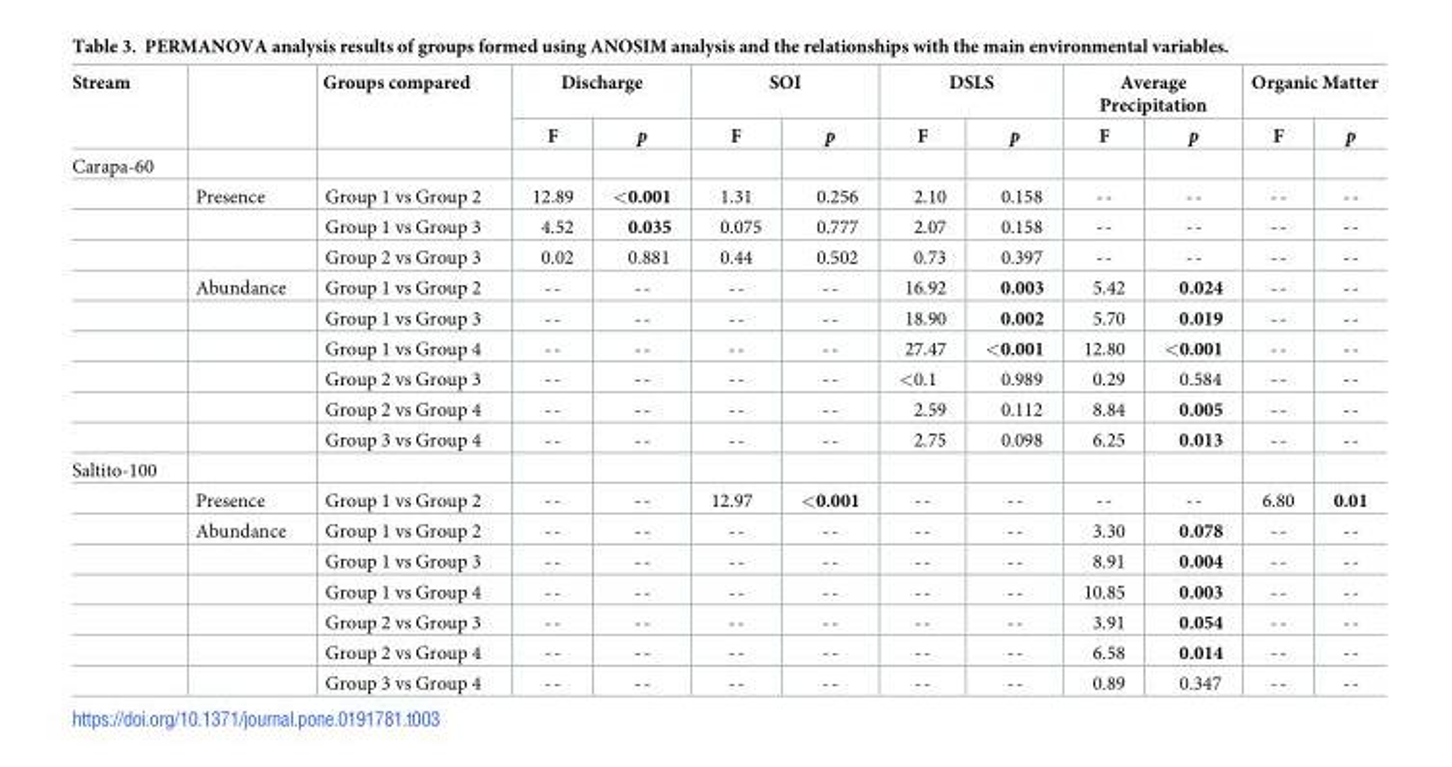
<table><thead><tr><td rowspan="2">Stream</td><td rowspan="2"></td><td rowspan="2">Groups compared</td><td colspan="2">Discharge</td><td colspan="2">SOI</td><td colspan="2">DSLS</td><td colspan="2">Average Precipitation</td><td colspan="2">Organic Matter</td></tr><tr><td>F</td><td>p</td><td>F</td><td>p</td><td>F</td><td>p</td><td>F</td><td>p</td><td>F</td><td>p</td></tr></thead><tbody><tr><td colspan="13">Carapa-60</td></tr><tr><td></td><td>Presence</td><td>Group 1 vs Group 2</td><td>12.89</td><td>&lt;0.001</td><td>1.31</td><td>0.256</td><td>2.10</td><td>0.158</td><td>--</td><td>--</td><td>--</td><td>--</td></tr><tr><td></td><td></td><td>Group 1 vs Group 3</td><td>4.52</td><td>0.035</td><td>0.075</td><td>0.777</td><td>2.07</td><td>0.158</td><td>--</td><td>--</td><td>--</td><td>--</td></tr><tr><td></td><td></td><td>Group 2 vs Group 3</td><td>0.02</td><td>0.881</td><td>0.44</td><td>0.502</td><td>0.73</td><td>0.397</td><td>--</td><td>--</td><td>--</td><td>--</td></tr><tr><td></td><td>Abundance</td><td>Group 1 vs Group 2</td><td>--</td><td>--</td><td>--</td><td>--</td><td>16.92</td><td>0.003</td><td>5.42</td><td>0.024</td><td>--</td><td>--</td></tr><tr><td></td><td></td><td>Group 1 vs Group 3</td><td>--</td><td>--</td><td>--</td><td>--</td><td>18.90</td><td>0.002</td><td>5.70</td><td>0.019</td><td>--</td><td>--</td></tr><tr><td></td><td></td><td>Group 1 vs Group 4</td><td>--</td><td>--</td><td>--</td><td>--</td><td>27.47</td><td>&lt;0.001</td><td>12.80</td><td>&lt;0.001</td><td>--</td><td>--</td></tr><tr><td></td><td></td><td>Group 2 vs Group 3</td><td>--</td><td>--</td><td>--</td><td>--</td><td>&lt;0.1</td><td>0.989</td><td>0.29</td><td>0.584</td><td>--</td><td>--</td></tr><tr><td></td><td></td><td>Group 2 vs Group 4</td><td>--</td><td>--</td><td>--</td><td>--</td><td>2.59</td><td>0.112</td><td>8.84</td><td>0.005</td><td>--</td><td>--</td></tr><tr><td></td><td></td><td>Group 3 vs Group 4</td><td>--</td><td>--</td><td>--</td><td>--</td><td>2.75</td><td>0.098</td><td>6.25</td><td>0.013</td><td>--</td><td>--</td></tr><tr><td colspan="13">Saltito-100</td></tr><tr><td></td><td>Presence</td><td>Group 1 vs Group 2</td><td>--</td><td>--</td><td>12.97</td><td>&lt;0.001</td><td>--</td><td>--</td><td>--</td><td>--</td><td>6.80</td><td>0.01</td></tr><tr><td></td><td>Abundance</td><td>Group 1 vs Group 2</td><td>--</td><td>--</td><td>--</td><td>--</td><td>--</td><td>--</td><td>3.30</td><td>0.078</td><td>--</td><td>--</td></tr><tr><td></td><td></td><td>Group 1 vs Group 3</td><td>--</td><td>--</td><td>--</td><td>--</td><td>--</td><td>--</td><td>8.91</td><td>0.004</td><td>--</td><td>--</td></tr><tr><td></td><td></td><td>Group 1 vs Group 4</td><td>--</td><td>--</td><td>--</td><td>--</td><td>--</td><td>--</td><td>10.85</td><td>0.003</td><td>--</td><td>--</td></tr><tr><td></td><td></td><td>Group 2 vs Group 3</td><td>--</td><td>--</td><td>--</td><td>--</td><td>--</td><td>--</td><td>3.91</td><td>0.054</td><td>--</td><td>--</td></tr><tr><td></td><td></td><td>Group 2 vs Group 4</td><td>--</td><td>--</td><td>--</td><td>--</td><td>--</td><td>--</td><td>6.58</td><td>0.014</td><td>--</td><td>--</td></tr><tr><td></td><td></td><td>Group 3 vs Group 4</td><td>--</td><td>--</td><td>--</td><td>--</td><td>--</td><td>--</td><td>0.89</td><td>0.347</td><td>--</td><td>--</td></tr></tbody></table>